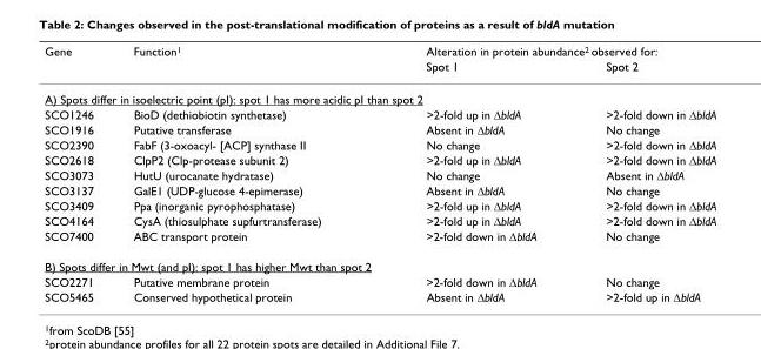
<table><thead><tr><td rowspan="2">Gene</td><td rowspan="2">Function<sup>1</sup></td><td colspan="2">Alteration in protein abundance<sup>2</sup> observed for:</td></tr><tr><td>Spot 1</td><td>Spot 2</td></tr></thead><tbody><tr><td colspan="4">A) Spots differ in isoelectric point (pI): spot 1 has more acidic pI than spot 2</td></tr><tr><td>SCO1246</td><td>BioD (dethiobiotin synthetase)</td><td>&gt;2-fold up in ΔbldA</td><td>&gt;2-fold down in ΔbldA</td></tr><tr><td>SCO1916</td><td>Putative transferase</td><td>Absent in ΔbldA</td><td>No change</td></tr><tr><td>SCO2390</td><td>FabF (3-oxoacyl- [ACP] synthase II</td><td>No change</td><td>&gt;2-fold down in ΔbldA</td></tr><tr><td>SCO2618</td><td>ClpP2 (Clp-protease subunit 2)</td><td>&gt;2-fold up in ΔbldA</td><td>&gt;2-fold down in ΔbldA</td></tr><tr><td>SCO3073</td><td>HutU (urocanate hydratase)</td><td>No change</td><td>Absent in ΔbldA</td></tr><tr><td>SCO3137</td><td>GalE1 (UDP-glucose 4-epimerase)</td><td>Absent in ΔbldA</td><td>No change</td></tr><tr><td>SCO3409</td><td>Ppa (inorganic pyrophosphatase)</td><td>&gt;2-fold up in ΔbldA</td><td>&gt;2-fold down in ΔbldA</td></tr><tr><td>SCO4164</td><td>CysA (thiosulphate supfurtransferase)</td><td>&gt;2-fold up in ΔbldA</td><td>&gt;2-fold down in ΔbldA</td></tr><tr><td>SCO7400</td><td>ABC transport protein</td><td>&gt;2-fold down in ΔbldA</td><td>No change</td></tr><tr><td colspan="4">B) Spots differ in Mwt (and pI): spot 1 has higher Mwt than spot 2</td></tr><tr><td>SCO2271</td><td>Putative membrane protein</td><td>&gt;2-fold down in ΔbldA</td><td>No change</td></tr><tr><td>SCO5465</td><td>Conserved hypothetical protein</td><td>Absent in ΔbldA</td><td>&gt;2-fold up in ΔbldA</td></tr></tbody></table>